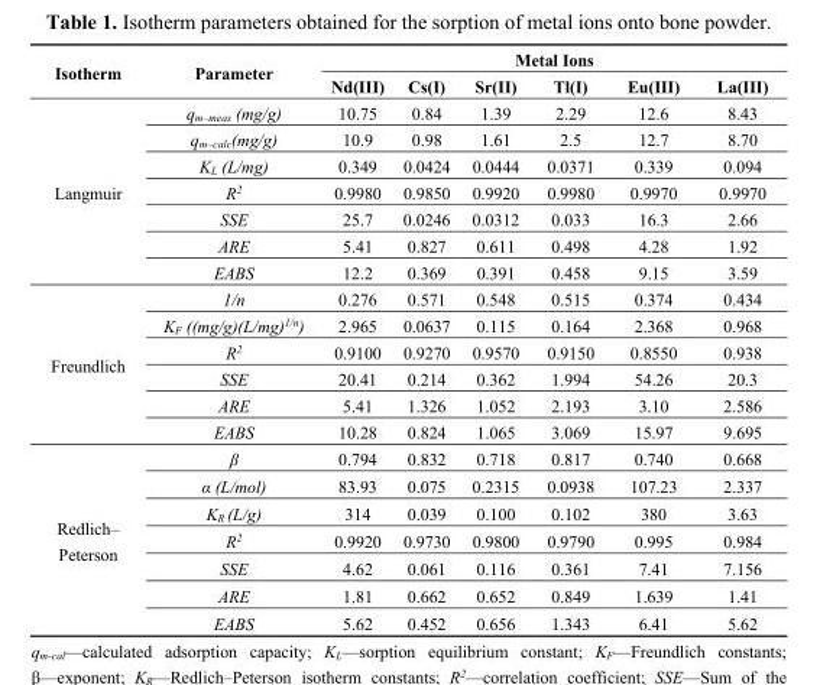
<table><thead><tr><td rowspan="2">Isotherm</td><td rowspan="2">Parameter</td><td colspan="6">Metal Ions</td></tr><tr><td>Nd(III)</td><td>Cs(I)</td><td>Sr(II)</td><td>Tl(I)</td><td>Eu(III)</td><td>La(III)</td></tr></thead><tbody><tr><td rowspan="7">Langmuir</td><td>q<sub>m–meas</sub> (mg/g)</td><td>10.75</td><td>0.84</td><td>1.39</td><td>2.29</td><td>12.6</td><td>8.43</td></tr><tr><td>q<sub>m–calc</sub>(mg/g)</td><td>10.9</td><td>0.98</td><td>1.61</td><td>2.5</td><td>12.7</td><td>8.70</td></tr><tr><td>K<sub>L</sub> (L/mg)</td><td>0.349</td><td>0.0424</td><td>0.0444</td><td>0.0371</td><td>0.339</td><td>0.094</td></tr><tr><td>R<sup>2</sup></td><td>0.9980</td><td>0.9850</td><td>0.9920</td><td>0.9980</td><td>0.9970</td><td>0.9970</td></tr><tr><td>SSE</td><td>25.7</td><td>0.0246</td><td>0.0312</td><td>0.033</td><td>16.3</td><td>2.66</td></tr><tr><td>ARE</td><td>5.41</td><td>0.827</td><td>0.611</td><td>0.498</td><td>4.28</td><td>1.92</td></tr><tr><td>EABS</td><td>12.2</td><td>0.369</td><td>0.391</td><td>0.458</td><td>9.15</td><td>3.59</td></tr><tr><td rowspan="6">Freundlich</td><td>1/n</td><td>0.276</td><td>0.571</td><td>0.548</td><td>0.515</td><td>0.374</td><td>0.434</td></tr><tr><td>K<sub>F</sub> ((mg/g)(L/mg)<sup>1/n</sup>)</td><td>2.965</td><td>0.0637</td><td>0.115</td><td>0.164</td><td>2.368</td><td>0.968</td></tr><tr><td>R<sup>2</sup></td><td>0.9100</td><td>0.9270</td><td>0.9570</td><td>0.9150</td><td>0.8550</td><td>0.938</td></tr><tr><td>SSE</td><td>20.41</td><td>0.214</td><td>0.362</td><td>1.994</td><td>54.26</td><td>20.3</td></tr><tr><td>ARE</td><td>5.41</td><td>1.326</td><td>1.052</td><td>2.193</td><td>3.10</td><td>2.586</td></tr><tr><td>EABS</td><td>10.28</td><td>0.824</td><td>1.065</td><td>3.069</td><td>15.97</td><td>9.695</td></tr><tr><td rowspan="7">Redlich– Peterson</td><td>β</td><td>0.794</td><td>0.832</td><td>0.718</td><td>0.817</td><td>0.740</td><td>0.668</td></tr><tr><td>α (L/mol)</td><td>83.93</td><td>0.075</td><td>0.2315</td><td>0.0938</td><td>107.23</td><td>2.337</td></tr><tr><td>K<sub>R</sub> (L/g)</td><td>314</td><td>0.039</td><td>0.100</td><td>0.102</td><td>380</td><td>3.63</td></tr><tr><td>R<sup>2</sup></td><td>0.9920</td><td>0.9730</td><td>0.9800</td><td>0.9790</td><td>0.995</td><td>0.984</td></tr><tr><td>SSE</td><td>4.62</td><td>0.061</td><td>0.116</td><td>0.361</td><td>7.41</td><td>7.156</td></tr><tr><td>ARE</td><td>1.81</td><td>0.662</td><td>0.652</td><td>0.849</td><td>1.639</td><td>1.41</td></tr><tr><td>EABS</td><td>5.62</td><td>0.452</td><td>0.656</td><td>1.343</td><td>6.41</td><td>5.62</td></tr></tbody></table>